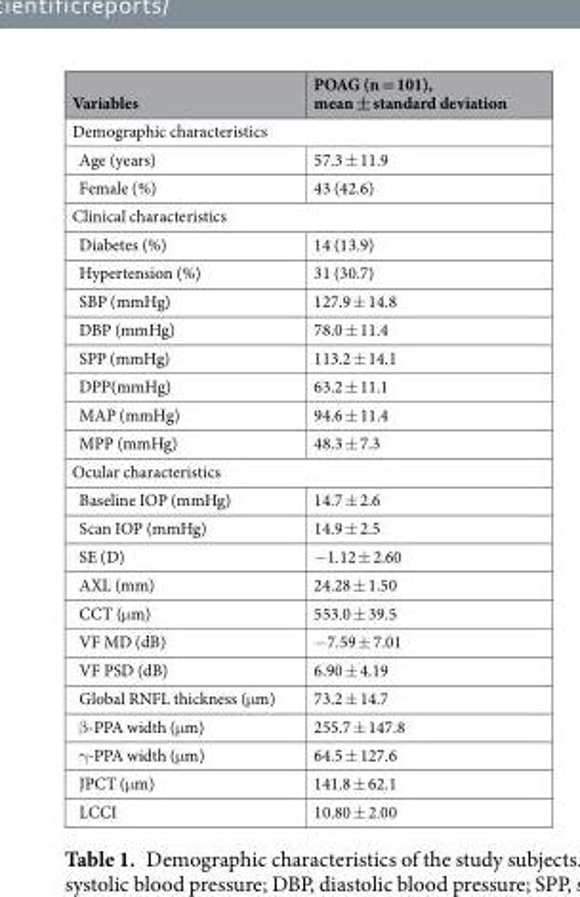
<table><thead><tr><td>Variables</td><td>POAG (n = 101), mean ± standard deviation</td></tr></thead><tbody><tr><td colspan="2">Demographic characteristics</td></tr><tr><td>Age (years)</td><td>57.3 ± 11.9</td></tr><tr><td>Female (%)</td><td>43 (42.6)</td></tr><tr><td colspan="2">Clinical characteristics</td></tr><tr><td>Diabetes (%)</td><td>14 (13.9)</td></tr><tr><td>Hypertension (%)</td><td>31 (30.7)</td></tr><tr><td>SBP (mmHg)</td><td>127.9 ± 14.8</td></tr><tr><td>DBP (mmHg)</td><td>78.0 ± 11.4</td></tr><tr><td>SPP (mmHg)</td><td>113.2 ± 14.1</td></tr><tr><td>DPP(mmHg)</td><td>63.2 ± 11.1</td></tr><tr><td>MAP (mmHg)</td><td>94.6 ± 11.4</td></tr><tr><td>MPP (mmHg)</td><td>48.3 ± 7.3</td></tr><tr><td colspan="2">Ocular characteristics</td></tr><tr><td>Baseline IOP (mmHg)</td><td>14.7 ± 2.6</td></tr><tr><td>Scan IOP (mmHg)</td><td>14.9 ± 2.5</td></tr><tr><td>SE (D)</td><td>−1.12 ± 2.60</td></tr><tr><td>AXL (mm)</td><td>24.28 ± 1.50</td></tr><tr><td>CCT (μm)</td><td>553.0 ± 39.5</td></tr><tr><td>VF MD (dB)</td><td>−7.59 ± 7.01</td></tr><tr><td>VF PSD (dB)</td><td>6.90 ± 4.19</td></tr><tr><td>Global RNFL thickness (μm)</td><td>73.2 ± 14.7</td></tr><tr><td>β-PPA width (μm)</td><td>255.7 ± 147.8</td></tr><tr><td>γ-PPA width (μm)</td><td>64.5 ± 127.6</td></tr><tr><td>JPCT (μm)</td><td>141.8 ± 62.1</td></tr><tr><td>LCCI</td><td>10.80 ± 2.00</td></tr></tbody></table>